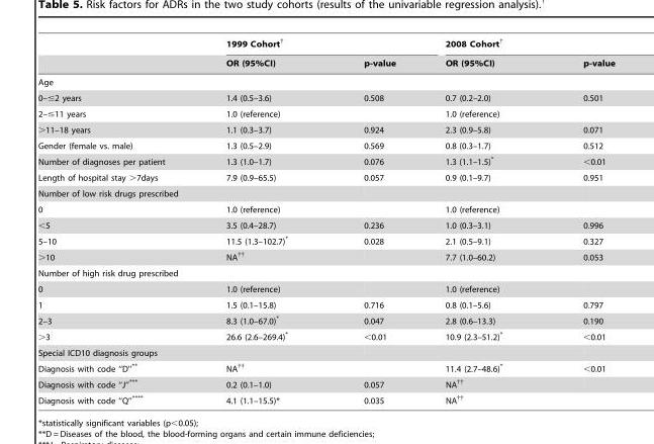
<table><thead><tr><td rowspan="2"></td><td colspan="2">1999 Cohort<sup>†</sup></td><td colspan="2">2008 Cohort<sup>†</sup></td></tr><tr><td>OR (95%CI)</td><td>p-value</td><td>OR (95%CI)</td><td>p-value</td></tr></thead><tbody><tr><td colspan="5">Age</td></tr><tr><td>0–≤2 years</td><td>1.4 (0.5–3.6)</td><td>0.508</td><td>0.7 (0.2–2.0)</td><td>0.501</td></tr><tr><td>2–≤11 years</td><td>1.0 (reference)</td><td></td><td>1.0 (reference)</td><td></td></tr><tr><td>&gt;11–18 years</td><td>1.1 (0.3–3.7)</td><td>0.924</td><td>2.3 (0.9–5.8)</td><td>0.071</td></tr><tr><td>Gender (female vs. male)</td><td>1.3 (0.5–2.9)</td><td>0.569</td><td>0.8 (0.3–1.7)</td><td>0.512</td></tr><tr><td>Number of diagnoses per patient</td><td>1.3 (1.0–1.7)</td><td>0.076</td><td>1.3 (1.1–1.5)*</td><td>&lt;0.01</td></tr><tr><td>Length of hospital stay &gt;7days</td><td>7.9 (0.9–65.5)</td><td>0.057</td><td>0.9 (0.1–9.7)</td><td>0.951</td></tr><tr><td colspan="5">Number of low risk drugs prescribed</td></tr><tr><td>0</td><td>1.0 (reference)</td><td></td><td>1.0 (reference)</td><td></td></tr><tr><td>&lt;5</td><td>3.5 (0.4–28.7)</td><td>0.236</td><td>1.0 (0.3–3.1)</td><td>0.996</td></tr><tr><td>5–10</td><td>11.5 (1.3–102.7)*</td><td>0.028</td><td>2.1 (0.5–9.1)</td><td>0.327</td></tr><tr><td>&gt;10</td><td>NA††</td><td></td><td>7.7 (1.0–60.2)</td><td>0.053</td></tr><tr><td colspan="5">Number of high risk drug prescribed</td></tr><tr><td>0</td><td>1.0 (reference)</td><td></td><td>1.0 (reference)</td><td></td></tr><tr><td>1</td><td>1.5 (0.1–15.8)</td><td>0.716</td><td>0.8 (0.1–5.6)</td><td>0.797</td></tr><tr><td>2–3</td><td>8.3 (1.0–67.0)*</td><td>0.047</td><td>2.8 (0.6–13.3)</td><td>0.190</td></tr><tr><td>&gt;3</td><td>26.6 (2.6–269.4)*</td><td>&lt;0.01</td><td>10.9 (2.3–51.2)*</td><td>&lt;0.01</td></tr><tr><td colspan="5">Special ICD10 diagnosis groups</td></tr><tr><td>Diagnosis with code ‘‘D’’**</td><td>NA††</td><td></td><td>11.4 (2.7–48.6)*</td><td>&lt;0.01</td></tr><tr><td>Diagnosis with code ‘‘J’’***</td><td>0.2 (0.1–1.0)</td><td>0.057</td><td>NA††</td><td></td></tr><tr><td>Diagnosis with code ‘‘Q’’****</td><td>4.1 (1.1–15.5)*</td><td>0.035</td><td>NA††</td><td></td></tr></tbody></table>